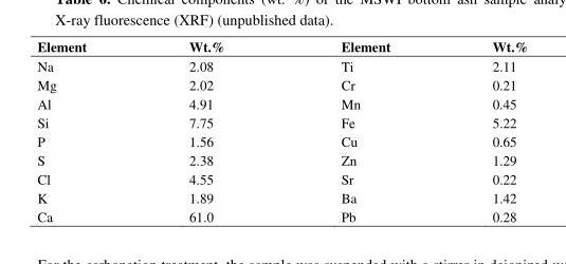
<table><thead><tr><td>Element</td><td>Wt.%</td><td>Element</td><td>Wt.%</td></tr></thead><tbody><tr><td>Na</td><td>2.08</td><td>Ti</td><td>2.11</td></tr><tr><td>Mg</td><td>2.02</td><td>Cr</td><td>0.21</td></tr><tr><td>Al</td><td>4.91</td><td>Mn</td><td>0.45</td></tr><tr><td>Si</td><td>7.75</td><td>Fe</td><td>5.22</td></tr><tr><td>P</td><td>1.56</td><td>Cu</td><td>0.65</td></tr><tr><td>S</td><td>2.38</td><td>Zn</td><td>1.29</td></tr><tr><td>Cl</td><td>4.55</td><td>Sr</td><td>0.22</td></tr><tr><td>K</td><td>1.89</td><td>Ba</td><td>1.42</td></tr><tr><td>Ca</td><td>61.0</td><td>Pb</td><td>0.28</td></tr></tbody></table>